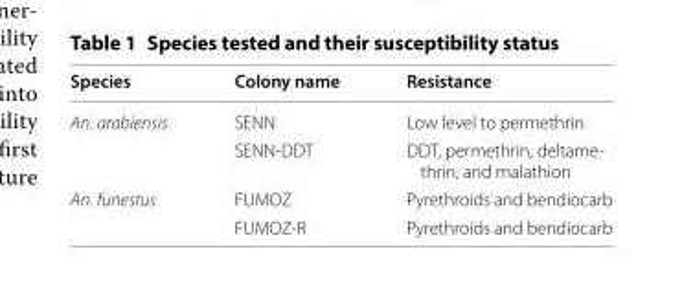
<table><thead><tr><td>Species</td><td>Colony name</td><td>Resistance</td></tr></thead><tbody><tr><td rowspan="2">An. arabiensis</td><td>SENN</td><td>Low level to permethrin</td></tr><tr><td>SENN-DDT</td><td>DDT, permethrin, deltame- thrin, and malathion</td></tr><tr><td rowspan="2">An. funestus</td><td>FUMOZ</td><td>Pyrethroids and bendiocarb</td></tr><tr><td>FUMOZ-R</td><td>Pyrethroids and bendiocarb</td></tr></tbody></table>